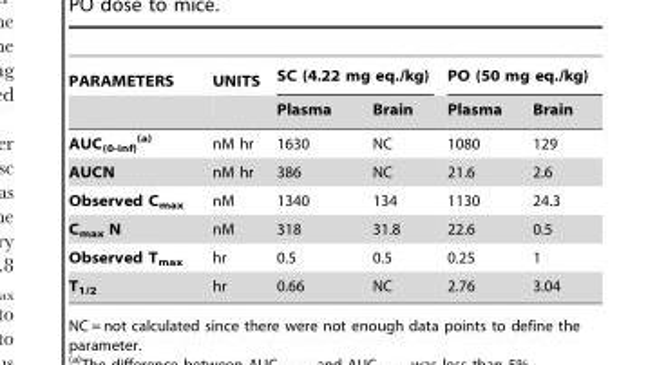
<table><thead><tr><td rowspan="2">PARAMETERS</td><td rowspan="2">UNITS</td><td colspan="2">SC (4.22 mg eq./kg)</td><td colspan="2">PO (50 mg eq./kg)</td></tr><tr><td>Plasma</td><td>Brain</td><td>Plasma</td><td>Brain</td></tr></thead><tbody><tr><td>AUC<sub>(0-inf)</sub> (a)</td><td>nM hr</td><td>1630</td><td>NC</td><td>1080</td><td>129</td></tr><tr><td>AUCN</td><td>nM hr</td><td>386</td><td>NC</td><td>21.6</td><td>2.6</td></tr><tr><td>Observed C<sub>max</sub></td><td>nM</td><td>1340</td><td>134</td><td>1130</td><td>24.3</td></tr><tr><td>C<sub>max</sub> N</td><td>nM</td><td>318</td><td>31.8</td><td>22.6</td><td>0.5</td></tr><tr><td>Observed T<sub>max</sub></td><td>hr</td><td>0.5</td><td>0.5</td><td>0.25</td><td>1</td></tr><tr><td>T<sub>1/2</sub></td><td>hr</td><td>0.66</td><td>NC</td><td>2.76</td><td>3.04</td></tr></tbody></table>